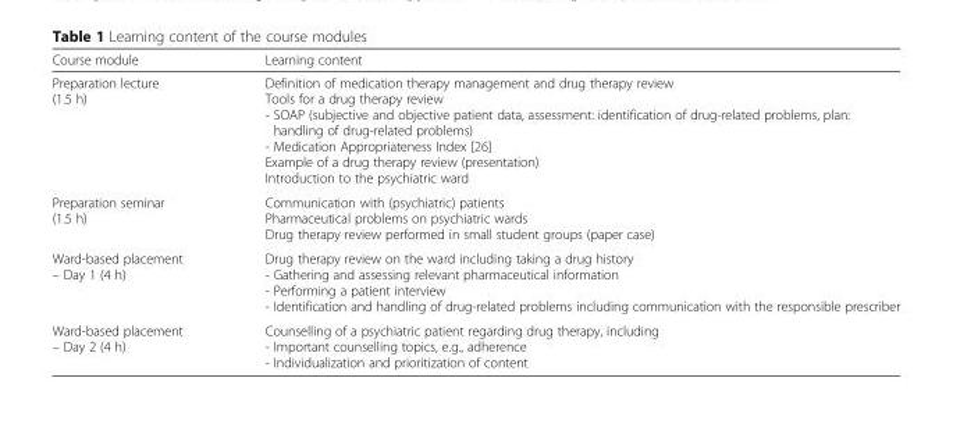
<table><thead><tr><td>Course module</td><td>Learning content</td></tr></thead><tbody><tr><td>Preparation lecture (1.5 h)</td><td>Definition of medication therapy management and drug therapy review Tools for a drug therapy review - SOAP (subjective and objective patient data, assessment: identification of drug-related problems, plan: handling of drug-related problems) - Medication Appropriateness Index [26] Example of a drug therapy review (presentation) Introduction to the psychiatric ward</td></tr><tr><td>Preparation seminar (1.5 h)</td><td>Communication with (psychiatric) patients Pharmaceutical problems on psychiatric wards Drug therapy review performed in small student groups (paper case)</td></tr><tr><td>Ward-based placement – Day 1 (4 h)</td><td>Drug therapy review on the ward including taking a drug history - Gathering and assessing relevant pharmaceutical information - Performing a patient interview - Identification and handling of drug-related problems including communication with the responsible prescriber</td></tr><tr><td>Ward-based placement – Day 2 (4 h)</td><td>Counselling of a psychiatric patient regarding drug therapy, including - Important counselling topics, e.g., adherence - Individualization and prioritization of content</td></tr></tbody></table>